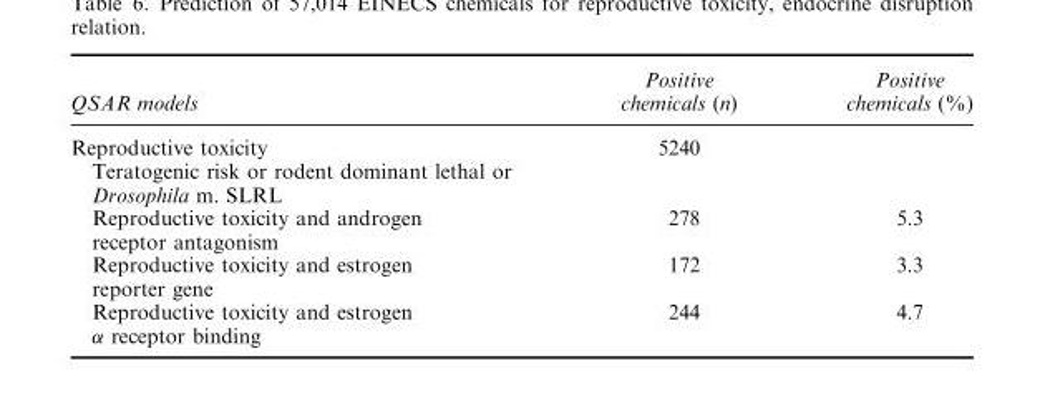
<table><thead><tr><td>QSAR models</td><td>Positive chemicals (n)</td><td>Positive chemicals (%)</td></tr></thead><tbody><tr><td>Reproductive toxicity</td><td>5240</td><td></td></tr><tr><td colspan="3">Teratogenic risk or rodent dominant lethal or Drosophila m. SLRL</td></tr><tr><td>Reproductive toxicity and androgen receptor antagonism</td><td>278</td><td>5.3</td></tr><tr><td>Reproductive toxicity and estrogen reporter gene</td><td>172</td><td>3.3</td></tr><tr><td>Reproductive toxicity and estrogen α receptor binding</td><td>244</td><td>4.7</td></tr></tbody></table>